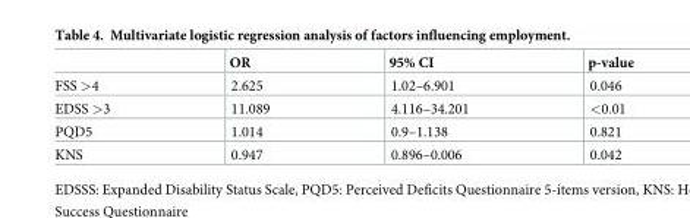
<table><thead><tr><td></td><td>OR</td><td>95% CI</td><td>p-value</td></tr></thead><tbody><tr><td>FSS &gt;4</td><td>2.625</td><td>1.02–6.901</td><td>0.046</td></tr><tr><td>EDSS &gt;3</td><td>11.089</td><td>4.116–34.201</td><td>&lt;0.01</td></tr><tr><td>PQD5</td><td>1.014</td><td>0.9–1.138</td><td>0.821</td></tr><tr><td>KNS</td><td>0.947</td><td>0.896–0.006</td><td>0.042</td></tr></tbody></table>